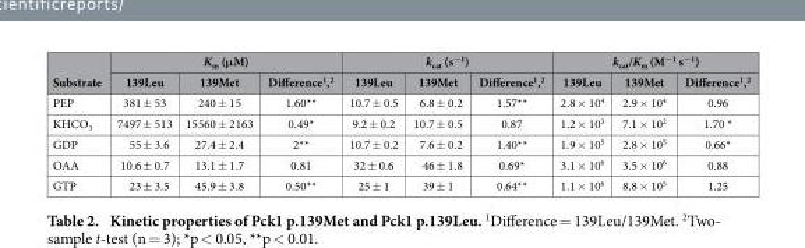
<table><thead><tr><td rowspan="2">Substrate</td><td colspan="3">K<sub>m</sub> (μM)</td><td colspan="3">k<sub>cat</sub> (s<sup>−1</sup>)</td><td colspan="3">k<sub>cat</sub>/K<sub>m</sub> (M<sup>−1</sup> s<sup>−1</sup>)</td></tr><tr><td>139Leu</td><td>139Met</td><td>Difference<sup>1</sup>,<sup>2</sup></td><td>139Leu</td><td>139Met</td><td>Difference<sup>1</sup>,<sup>2</sup></td><td>139Leu</td><td>139Met</td><td>Difference<sup>1</sup>,<sup>2</sup></td></tr></thead><tbody><tr><td>PEP</td><td>381 ± 53</td><td>240 ± 15</td><td>1.60**</td><td>10.7 ± 0.5</td><td>6.8 ± 0.2</td><td>1.57**</td><td>2.8 × 10<sup>4</sup></td><td>2.9 × 10<sup>4</sup></td><td>0.96</td></tr><tr><td>KHCO<sub>3</sub></td><td>7497 ± 513</td><td>15560 ± 2163</td><td>0.49*</td><td>9.2 ± 0.2</td><td>10.7 ± 0.5</td><td>0.87</td><td>1.2 × 10<sup>3</sup></td><td>7.1 × 10<sup>2</sup></td><td>1.70 *</td></tr><tr><td>GDP</td><td>55 ± 3.6</td><td>27.4 ± 2.4</td><td>2**</td><td>10.7 ± 0.2</td><td>7.6 ± 0.2</td><td>1.40**</td><td>1.9 × 10<sup>5</sup></td><td>2.8 × 10<sup>5</sup></td><td>0.66*</td></tr><tr><td>OAA</td><td>10.6 ± 0.7</td><td>13.1 ± 1.7</td><td>0.81</td><td>32 ± 0.6</td><td>46 ± 1.8</td><td>0.69*</td><td>3.1 × 10<sup>6</sup></td><td>3.5 × 10<sup>6</sup></td><td>0.88</td></tr><tr><td>GTP</td><td>23 ± 3.5</td><td>45.9 ± 3.8</td><td>0.50**</td><td>25 ± 1</td><td>39 ± 1</td><td>0.64**</td><td>1.1 × 10<sup>6</sup></td><td>8.8 × 10<sup>5</sup></td><td>1.25</td></tr></tbody></table>